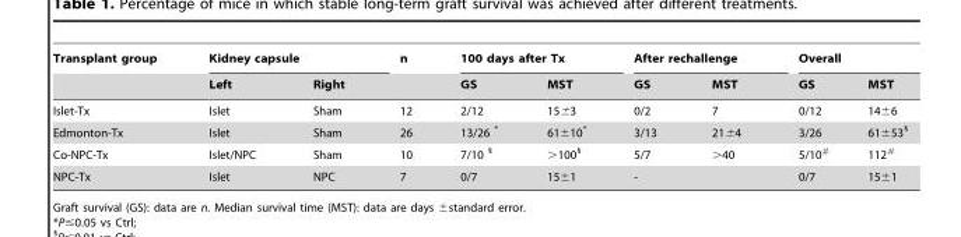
<table><thead><tr><td rowspan="2">Transplant group</td><td colspan="2">Kidney capsule</td><td rowspan="2">n</td><td colspan="2">100 days after Tx</td><td colspan="2">After rechallenge</td><td colspan="2">Overall</td></tr><tr><td>Left</td><td>Right</td><td>GS</td><td>MST</td><td>GS</td><td>MST</td><td>GS</td><td>MST</td></tr></thead><tbody><tr><td>Islet-Tx</td><td>Islet</td><td>Sham</td><td>12</td><td>2/12</td><td>15±3</td><td>0/2</td><td>7</td><td>0/12</td><td>14±6</td></tr><tr><td>Edmonton-Tx</td><td>Islet</td><td>Sham</td><td>26</td><td>13/26 *</td><td>61±10*</td><td>3/13</td><td>21±4</td><td>3/26</td><td>61±53§</td></tr><tr><td>Co-NPC-Tx</td><td>Islet/NPC</td><td>Sham</td><td>10</td><td>7/10 §</td><td>&gt;100§</td><td>5/7</td><td>&gt;40</td><td>5/10#</td><td>112#</td></tr><tr><td>NPC-Tx</td><td>Islet</td><td>NPC</td><td>7</td><td>0/7</td><td>15±1</td><td>-</td><td></td><td>0/7</td><td>15±1</td></tr></tbody></table>